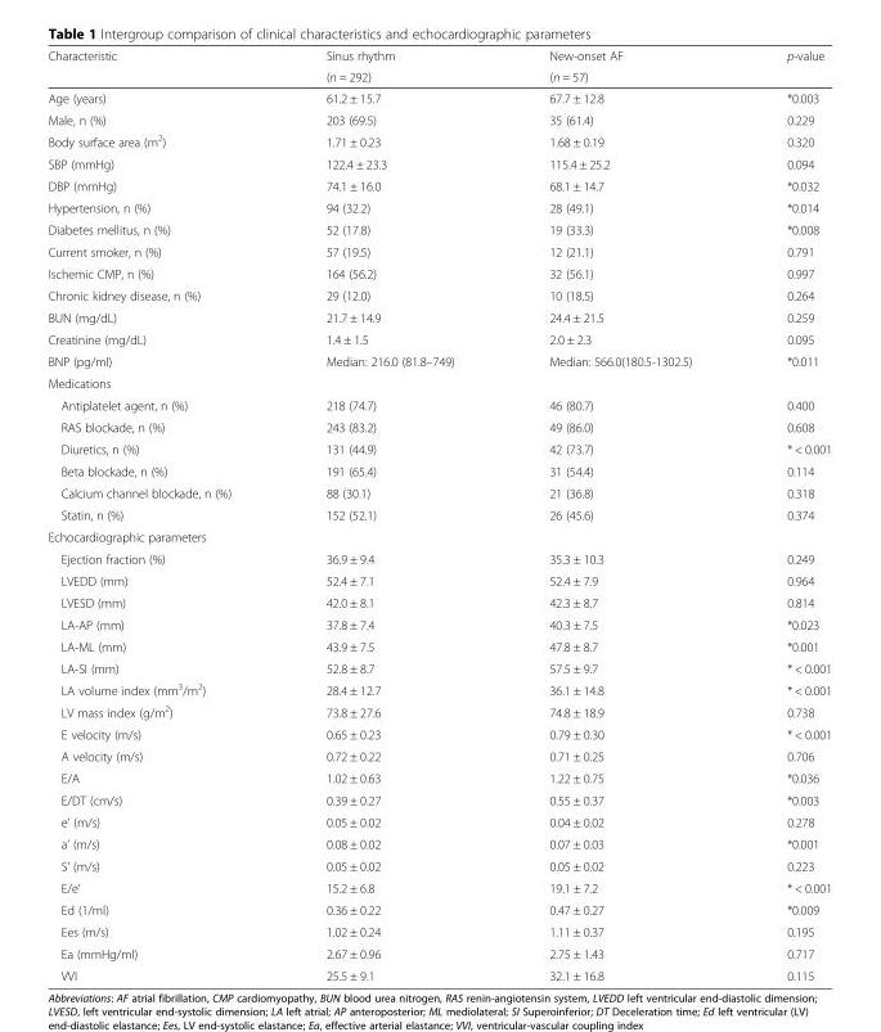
<table><thead><tr><td rowspan="2">Characteristic</td><td rowspan="2">Sinus rhythm (n = 292)</td><td rowspan="2">New-onset AF (n = 57)</td><td rowspan="2">p-value</td></tr><tr></tr></thead><tbody><tr><td>Age (years)</td><td>61.2 ± 15.7</td><td>67.7 ± 12.8</td><td>*0.003</td></tr><tr><td>Male, n (%)</td><td>203 (69.5)</td><td>35 (61.4)</td><td>0.229</td></tr><tr><td>Body surface area (m<sup>2</sup>)</td><td>1.71 ± 0.23</td><td>1.68 ± 0.19</td><td>0.320</td></tr><tr><td>SBP (mmHg)</td><td>122.4 ± 23.3</td><td>115.4 ± 25.2</td><td>0.094</td></tr><tr><td>DBP (mmHg)</td><td>74.1 ± 16.0</td><td>68.1 ± 14.7</td><td>*0.032</td></tr><tr><td>Hypertension, n (%)</td><td>94 (32.2)</td><td>28 (49.1)</td><td>*0.014</td></tr><tr><td>Diabetes mellitus, n (%)</td><td>52 (17.8)</td><td>19 (33.3)</td><td>*0.008</td></tr><tr><td>Current smoker, n (%)</td><td>57 (19.5)</td><td>12 (21.1)</td><td>0.791</td></tr><tr><td>Ischemic CMP, n (%)</td><td>164 (56.2)</td><td>32 (56.1)</td><td>0.997</td></tr><tr><td>Chronic kidney disease, n (%)</td><td>29 (12.0)</td><td>10 (18.5)</td><td>0.264</td></tr><tr><td>BUN (mg/dL)</td><td>21.7 ± 14.9</td><td>24.4 ± 21.5</td><td>0.259</td></tr><tr><td>Creatinine (mg/dL)</td><td>1.4 ± 1.5</td><td>2.0 ± 2.3</td><td>0.095</td></tr><tr><td>BNP (pg/ml)</td><td>Median: 216.0 (81.8–749)</td><td>Median: 566.0(180.5-1302.5)</td><td>*0.011</td></tr><tr><td colspan="4">Medications</td></tr><tr><td>Antiplatelet agent, n (%)</td><td>218 (74.7)</td><td>46 (80.7)</td><td>0.400</td></tr><tr><td>RAS blockade, n (%)</td><td>243 (83.2)</td><td>49 (86.0)</td><td>0.608</td></tr><tr><td>Diuretics, n (%)</td><td>131 (44.9)</td><td>42 (73.7)</td><td>* &lt; 0.001</td></tr><tr><td>Beta blockade, n (%)</td><td>191 (65.4)</td><td>31 (54.4)</td><td>0.114</td></tr><tr><td>Calcium channel blockade, n (%)</td><td>88 (30.1)</td><td>21 (36.8)</td><td>0.318</td></tr><tr><td>Statin, n (%)</td><td>152 (52.1)</td><td>26 (45.6)</td><td>0.374</td></tr><tr><td colspan="4">Echocardiographic parameters</td></tr><tr><td>Ejection fraction (%)</td><td>36.9 ± 9.4</td><td>35.3 ± 10.3</td><td>0.249</td></tr><tr><td>LVEDD (mm)</td><td>52.4 ± 7.1</td><td>52.4 ± 7.9</td><td>0.964</td></tr><tr><td>LVESD (mm)</td><td>42.0 ± 8.1</td><td>42.3 ± 8.7</td><td>0.814</td></tr><tr><td>LA-AP (mm)</td><td>37.8 ± 7.4</td><td>40.3 ± 7.5</td><td>*0.023</td></tr><tr><td>LA-ML (mm)</td><td>43.9 ± 7.5</td><td>47.8 ± 8.7</td><td>*0.001</td></tr><tr><td>LA-SI (mm)</td><td>52.8 ± 8.7</td><td>57.5 ± 9.7</td><td>* &lt; 0.001</td></tr><tr><td>LA volume index (mm<sup>3</sup>/m<sup>2</sup>)</td><td>28.4 ± 12.7</td><td>36.1 ± 14.8</td><td>* &lt; 0.001</td></tr><tr><td>LV mass index (g/m<sup>2</sup>)</td><td>73.8 ± 27.6</td><td>74.8 ± 18.9</td><td>0.738</td></tr><tr><td>E velocity (m/s)</td><td>0.65 ± 0.23</td><td>0.79 ± 0.30</td><td>* &lt; 0.001</td></tr><tr><td>A velocity (m/s)</td><td>0.72 ± 0.22</td><td>0.71 ± 0.25</td><td>0.706</td></tr><tr><td>E/A</td><td>1.02 ± 0.63</td><td>1.22 ± 0.75</td><td>*0.036</td></tr><tr><td>E/DT (cm/s)</td><td>0.39 ± 0.27</td><td>0.55 ± 0.37</td><td>*0.003</td></tr><tr><td>e’ (m/s)</td><td>0.05 ± 0.02</td><td>0.04 ± 0.02</td><td>0.278</td></tr><tr><td>a’ (m/s)</td><td>0.08 ± 0.02</td><td>0.07 ± 0.03</td><td>*0.001</td></tr><tr><td>S’ (m/s)</td><td>0.05 ± 0.02</td><td>0.05 ± 0.02</td><td>0.223</td></tr><tr><td>E/e’</td><td>15.2 ± 6.8</td><td>19.1 ± 7.2</td><td>* &lt; 0.001</td></tr><tr><td>Ed (1/ml)</td><td>0.36 ± 0.22</td><td>0.47 ± 0.27</td><td>*0.009</td></tr><tr><td>Ees (m/s)</td><td>1.02 ± 0.24</td><td>1.11 ± 0.37</td><td>0.195</td></tr><tr><td>Ea (mmHg/ml)</td><td>2.67 ± 0.96</td><td>2.75 ± 1.43</td><td>0.717</td></tr><tr><td>VVI</td><td>25.5 ± 9.1</td><td>32.1 ± 16.8</td><td>0.115</td></tr></tbody></table>